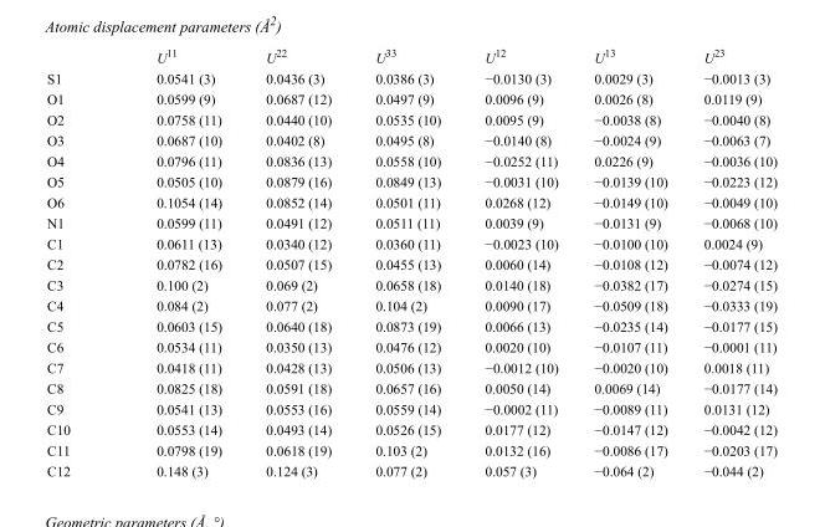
<table><thead><tr><td></td><td>U<sup>11</sup></td><td>U<sup>22</sup></td><td>U<sup>33</sup></td><td>U<sup>12</sup></td><td>U<sup>13</sup></td><td>U<sup>23</sup></td></tr></thead><tbody><tr><td>S1</td><td>0.0541 (3)</td><td>0.0436 (3)</td><td>0.0386 (3)</td><td>−0.0130 (3)</td><td>0.0029 (3)</td><td>−0.0013 (3)</td></tr><tr><td>O1</td><td>0.0599 (9)</td><td>0.0687 (12)</td><td>0.0497 (9)</td><td>0.0096 (9)</td><td>0.0026 (8)</td><td>0.0119 (9)</td></tr><tr><td>O2</td><td>0.0758 (11)</td><td>0.0440 (10)</td><td>0.0535 (10)</td><td>0.0095 (9)</td><td>−0.0038 (8)</td><td>−0.0040 (8)</td></tr><tr><td>O3</td><td>0.0687 (10)</td><td>0.0402 (8)</td><td>0.0495 (8)</td><td>−0.0140 (8)</td><td>−0.0024 (9)</td><td>−0.0063 (7)</td></tr><tr><td>O4</td><td>0.0796 (11)</td><td>0.0836 (13)</td><td>0.0558 (10)</td><td>−0.0252 (11)</td><td>0.0226 (9)</td><td>−0.0036 (10)</td></tr><tr><td>O5</td><td>0.0505 (10)</td><td>0.0879 (16)</td><td>0.0849 (13)</td><td>−0.0031 (10)</td><td>−0.0139 (10)</td><td>−0.0223 (12)</td></tr><tr><td>O6</td><td>0.1054 (14)</td><td>0.0852 (14)</td><td>0.0501 (11)</td><td>0.0268 (12)</td><td>−0.0149 (10)</td><td>−0.0049 (10)</td></tr><tr><td>N1</td><td>0.0599 (11)</td><td>0.0491 (12)</td><td>0.0511 (11)</td><td>0.0039 (9)</td><td>−0.0131 (9)</td><td>−0.0068 (10)</td></tr><tr><td>C1</td><td>0.0611 (13)</td><td>0.0340 (12)</td><td>0.0360 (11)</td><td>−0.0023 (10)</td><td>−0.0100 (10)</td><td>0.0024 (9)</td></tr><tr><td>C2</td><td>0.0782 (16)</td><td>0.0507 (15)</td><td>0.0455 (13)</td><td>0.0060 (14)</td><td>−0.0108 (12)</td><td>−0.0074 (12)</td></tr><tr><td>C3</td><td>0.100 (2)</td><td>0.069 (2)</td><td>0.0658 (18)</td><td>0.0140 (18)</td><td>−0.0382 (17)</td><td>−0.0274 (15)</td></tr><tr><td>C4</td><td>0.084 (2)</td><td>0.077 (2)</td><td>0.104 (2)</td><td>0.0090 (17)</td><td>−0.0509 (18)</td><td>−0.0333 (19)</td></tr><tr><td>C5</td><td>0.0603 (15)</td><td>0.0640 (18)</td><td>0.0873 (19)</td><td>0.0066 (13)</td><td>−0.0235 (14)</td><td>−0.0177 (15)</td></tr><tr><td>C6</td><td>0.0534 (11)</td><td>0.0350 (13)</td><td>0.0476 (12)</td><td>0.0020 (10)</td><td>−0.0107 (11)</td><td>−0.0001 (11)</td></tr><tr><td>C7</td><td>0.0418 (11)</td><td>0.0428 (13)</td><td>0.0506 (13)</td><td>−0.0012 (10)</td><td>−0.0020 (10)</td><td>0.0018 (11)</td></tr><tr><td>C8</td><td>0.0825 (18)</td><td>0.0591 (18)</td><td>0.0657 (16)</td><td>0.0050 (14)</td><td>0.0069 (14)</td><td>−0.0177 (14)</td></tr><tr><td>C9</td><td>0.0541 (13)</td><td>0.0553 (16)</td><td>0.0559 (14)</td><td>−0.0002 (11)</td><td>−0.0089 (11)</td><td>0.0131 (12)</td></tr><tr><td>C10</td><td>0.0553 (14)</td><td>0.0493 (14)</td><td>0.0526 (15)</td><td>0.0177 (12)</td><td>−0.0147 (12)</td><td>−0.0042 (12)</td></tr><tr><td>C11</td><td>0.0798 (19)</td><td>0.0618 (19)</td><td>0.103 (2)</td><td>0.0132 (16)</td><td>−0.0086 (17)</td><td>−0.0203 (17)</td></tr><tr><td>C12</td><td>0.148 (3)</td><td>0.124 (3)</td><td>0.077 (2)</td><td>0.057 (3)</td><td>−0.064 (2)</td><td>−0.044 (2)</td></tr></tbody></table>